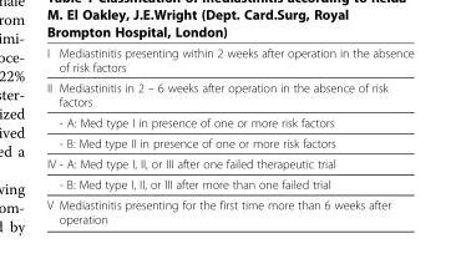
<table><tbody><tr><td>I</td><td>Mediastinitis presenting within 2 weeks after operation in the absence of risk factors</td></tr><tr><td rowspan="3">II</td><td>Mediastinitis in 2 – 6 weeks after operation in the absence of risk factors</td></tr><tr><td>- A: Med type I in presence of one or more risk factors</td></tr><tr><td>- B: Med type II in presence of one or more risk factors</td></tr><tr><td rowspan="2">IV</td><td>- A: Med type I, II, or III after one failed therapeutic trial</td></tr><tr><td>- B: Med type I, II, or III after more than one failed trial</td></tr><tr><td>V</td><td>Mediastinitis presenting for the first time more than 6 weeks after operation</td></tr></tbody></table>